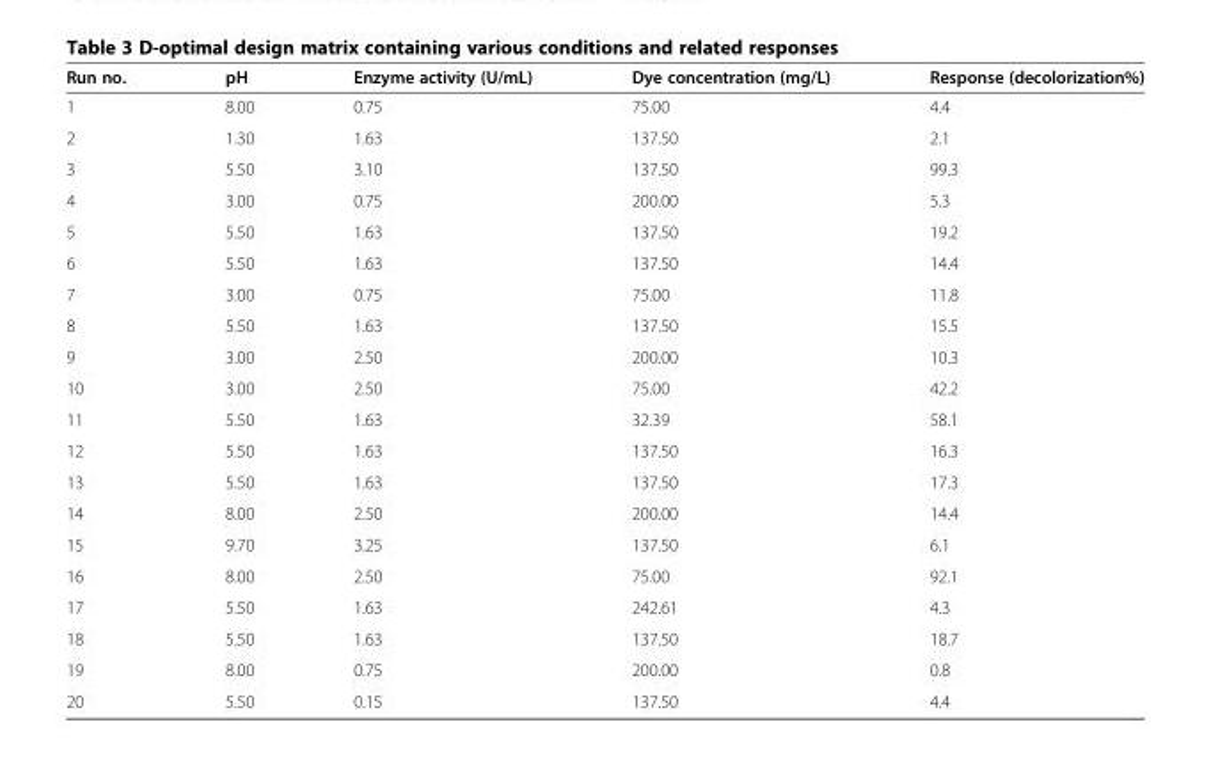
<table><thead><tr><td>Run no.</td><td>pH</td><td>Enzyme activity (U/mL)</td><td>Dye concentration (mg/L)</td><td>Response (decolorization%)</td></tr></thead><tbody><tr><td>1</td><td>8.00</td><td>0.75</td><td>75.00</td><td>4.4</td></tr><tr><td>2</td><td>1.30</td><td>1.63</td><td>137.50</td><td>2.1</td></tr><tr><td>3</td><td>5.50</td><td>3.10</td><td>137.50</td><td>99.3</td></tr><tr><td>4</td><td>3.00</td><td>0.75</td><td>200.00</td><td>5.3</td></tr><tr><td>5</td><td>5.50</td><td>1.63</td><td>137.50</td><td>19.2</td></tr><tr><td>6</td><td>5.50</td><td>1.63</td><td>137.50</td><td>14.4</td></tr><tr><td>7</td><td>3.00</td><td>0.75</td><td>75.00</td><td>11.8</td></tr><tr><td>8</td><td>5.50</td><td>1.63</td><td>137.50</td><td>15.5</td></tr><tr><td>9</td><td>3.00</td><td>2.50</td><td>200.00</td><td>10.3</td></tr><tr><td>10</td><td>3.00</td><td>2.50</td><td>75.00</td><td>42.2</td></tr><tr><td>11</td><td>5.50</td><td>1.63</td><td>32.39</td><td>58.1</td></tr><tr><td>12</td><td>5.50</td><td>1.63</td><td>137.50</td><td>16.3</td></tr><tr><td>13</td><td>5.50</td><td>1.63</td><td>137.50</td><td>17.3</td></tr><tr><td>14</td><td>8.00</td><td>2.50</td><td>200.00</td><td>14.4</td></tr><tr><td>15</td><td>9.70</td><td>3.25</td><td>137.50</td><td>6.1</td></tr><tr><td>16</td><td>8.00</td><td>2.50</td><td>75.00</td><td>92.1</td></tr><tr><td>17</td><td>5.50</td><td>1.63</td><td>242.61</td><td>4.3</td></tr><tr><td>18</td><td>5.50</td><td>1.63</td><td>137.50</td><td>18.7</td></tr><tr><td>19</td><td>8.00</td><td>0.75</td><td>200.00</td><td>0.8</td></tr><tr><td>20</td><td>5.50</td><td>0.15</td><td>137.50</td><td>4.4</td></tr></tbody></table>